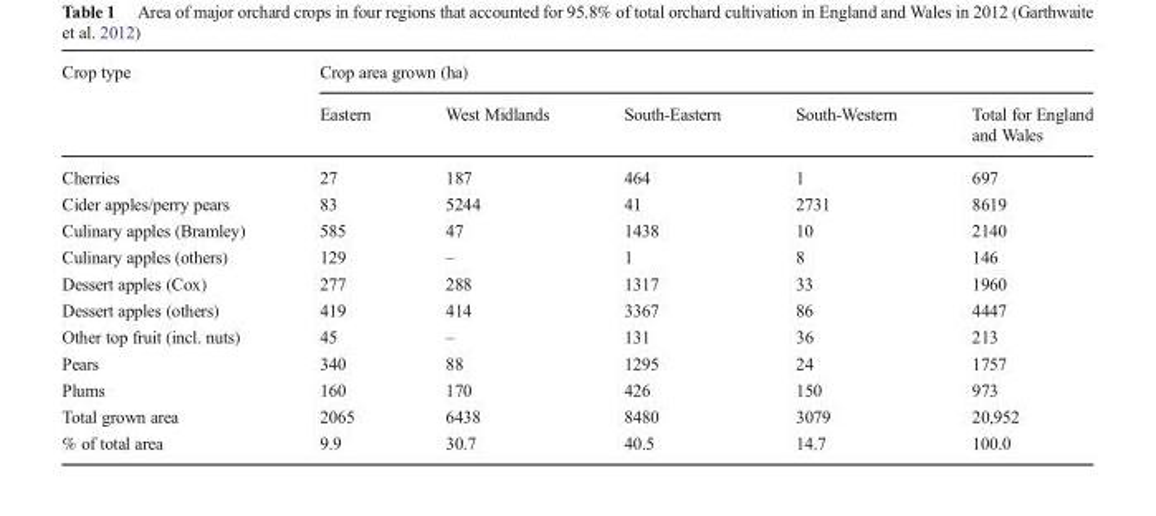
<table><thead><tr><td rowspan="2">Crop type</td><td colspan="5">Crop area grown (ha)</td></tr><tr><td>Eastern</td><td>West Midlands</td><td>South-Eastern</td><td>South-Western</td><td>Total for England and Wales</td></tr></thead><tbody><tr><td>Cherries</td><td>27</td><td>187</td><td>464</td><td>1</td><td>697</td></tr><tr><td>Cider apples/perry pears</td><td>83</td><td>5244</td><td>41</td><td>2731</td><td>8619</td></tr><tr><td>Culinary apples (Bramley)</td><td>585</td><td>47</td><td>1438</td><td>10</td><td>2140</td></tr><tr><td>Culinary apples (others)</td><td>129</td><td>–</td><td>1</td><td>8</td><td>146</td></tr><tr><td>Dessert apples (Cox)</td><td>277</td><td>288</td><td>1317</td><td>33</td><td>1960</td></tr><tr><td>Dessert apples (others)</td><td>419</td><td>414</td><td>3367</td><td>86</td><td>4447</td></tr><tr><td>Other top fruit (incl. nuts)</td><td>45</td><td>–</td><td>131</td><td>36</td><td>213</td></tr><tr><td>Pears</td><td>340</td><td>88</td><td>1295</td><td>24</td><td>1757</td></tr><tr><td>Plums</td><td>160</td><td>170</td><td>426</td><td>150</td><td>973</td></tr><tr><td>Total grown area</td><td>2065</td><td>6438</td><td>8480</td><td>3079</td><td>20,952</td></tr><tr><td>% of total area</td><td>9.9</td><td>30.7</td><td>40.5</td><td>14.7</td><td>100.0</td></tr></tbody></table>